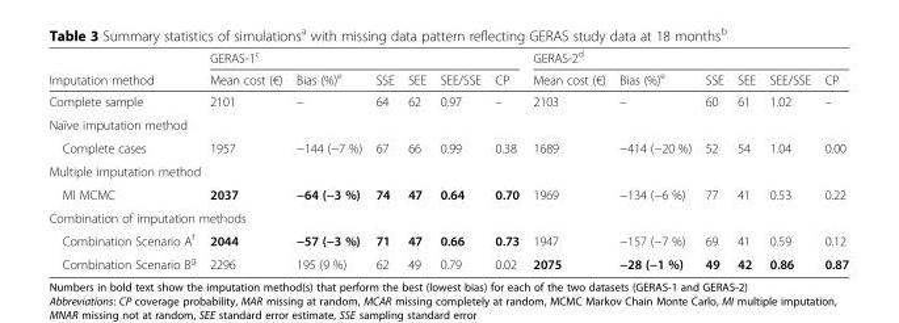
<table><thead><tr><td rowspan="2">Imputation method</td><td colspan="6">GERAS-1<sup>c</sup></td><td colspan="6">GERAS-2<sup>d</sup></td></tr><tr><td>Mean cost (€)</td><td>Bias (%)<sup>e</sup></td><td>SSE</td><td>SEE</td><td>SEE/SSE</td><td>CP</td><td>Mean cost (€)</td><td>Bias (%)<sup>e</sup></td><td>SSE</td><td>SEE</td><td>SEE/SSE</td><td>CP</td></tr></thead><tbody><tr><td>Complete sample</td><td>2101</td><td>–</td><td>64</td><td>62</td><td>0.97</td><td>–</td><td>2103</td><td>–</td><td>60</td><td>61</td><td>1.02</td><td>–</td></tr><tr><td colspan="13">Naïve imputation method</td></tr><tr><td>Complete cases</td><td>1957</td><td>−144 (−7 %)</td><td>67</td><td>66</td><td>0.99</td><td>0.38</td><td>1689</td><td>−414 (−20 %)</td><td>52</td><td>54</td><td>1.04</td><td>0.00</td></tr><tr><td colspan="13">Multiple imputation method</td></tr><tr><td>MI MCMC</td><td>2037</td><td>−64 (−3 %)</td><td>74</td><td>47</td><td>0.64</td><td>0.70</td><td>1969</td><td>−134 (−6 %)</td><td>77</td><td>41</td><td>0.53</td><td>0.22</td></tr><tr><td colspan="13">Combination of imputation methods</td></tr><tr><td>Combination Scenario A<sup>f</sup></td><td>2044</td><td>−57 (−3 %)</td><td>71</td><td>47</td><td>0.66</td><td>0.73</td><td>1947</td><td>−157 (−7 %)</td><td>69</td><td>41</td><td>0.59</td><td>0.12</td></tr><tr><td>Combination Scenario B<sup>g</sup></td><td>2296</td><td>195 (9 %)</td><td>62</td><td>49</td><td>0.79</td><td>0.02</td><td>2075</td><td>−28 (−1 %)</td><td>49</td><td>42</td><td>0.86</td><td>0.87</td></tr></tbody></table>